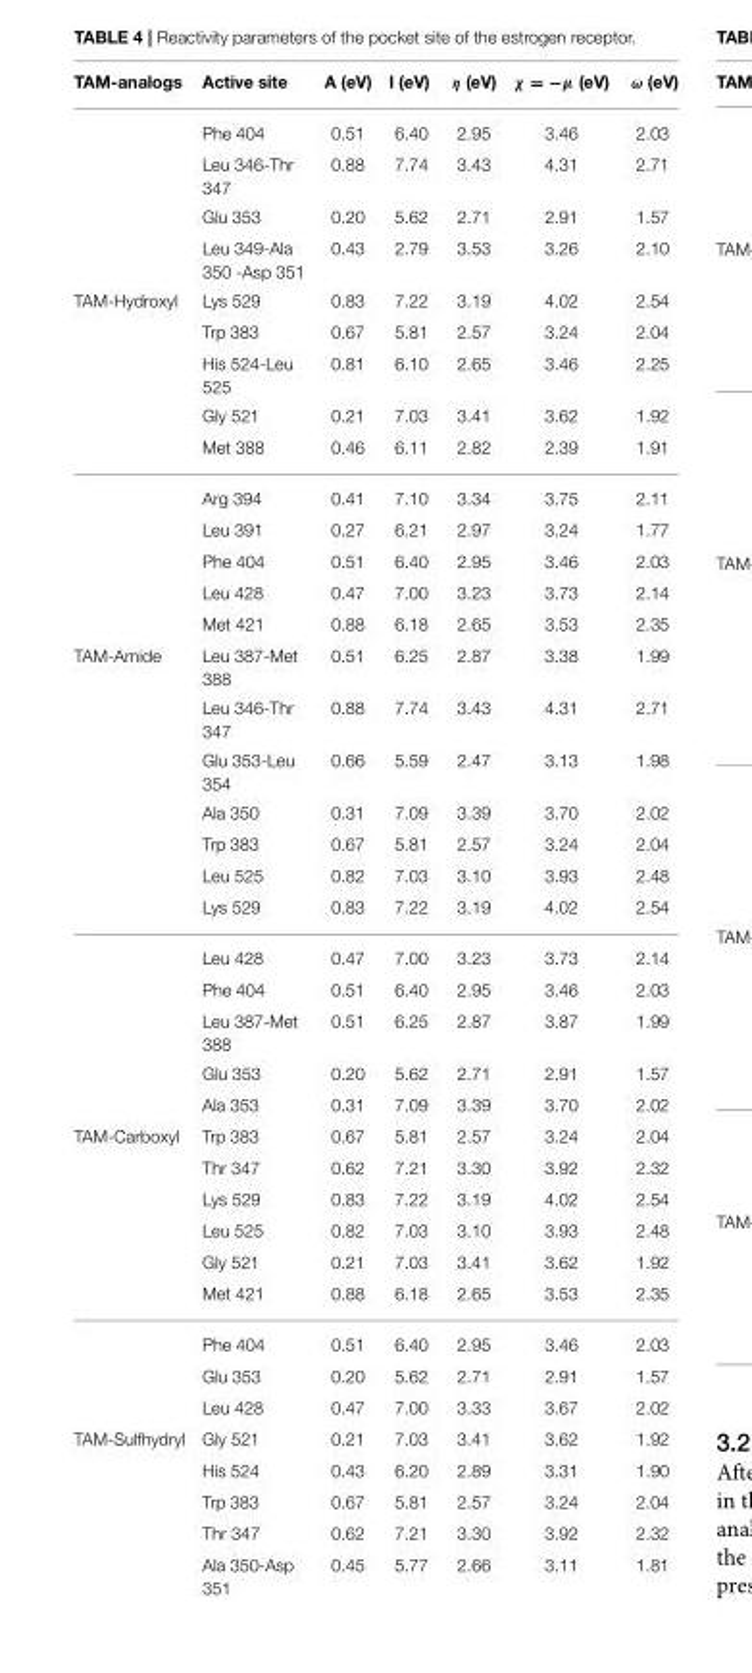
<table><thead><tr><td>TAM-analogs</td><td>Active site</td><td>A (eV)</td><td>I (eV)</td><td>η (eV)</td><td>χ = −µ (eV)</td><td>ω (eV)</td></tr></thead><tbody><tr><td></td><td>Phe 404</td><td>0.51</td><td>6.40</td><td>2.95</td><td>3.46</td><td>2.03</td></tr><tr><td></td><td>Leu 346-Thr 347</td><td>0.88</td><td>7.74</td><td>3.43</td><td>4.31</td><td>2.71</td></tr><tr><td></td><td>Glu 353</td><td>0.20</td><td>5.62</td><td>2.71</td><td>2.91</td><td>1.57</td></tr><tr><td></td><td>Leu 349-Ala 350 -Asp 351</td><td>0.43</td><td>2.79</td><td>3.53</td><td>3.26</td><td>2.10</td></tr><tr><td rowspan="10">TAM-Hydroxyl</td><td>Lys 529</td><td>0.83</td><td>7.22</td><td>3.19</td><td>4.02</td><td>2.54</td></tr><tr><td>Trp 383</td><td>0.67</td><td>5.81</td><td>2.57</td><td>3.24</td><td>2.04</td></tr><tr><td>His 524-Leu 525</td><td>0.81</td><td>6.10</td><td>2.65</td><td>3.46</td><td>2.25</td></tr><tr><td>Gly 521</td><td>0.21</td><td>7.03</td><td>3.41</td><td>3.62</td><td>1.92</td></tr><tr><td>Met 388</td><td>0.46</td><td>6.11</td><td>2.82</td><td>2.39</td><td>1.91</td></tr><tr><td>Arg 394</td><td>0.41</td><td>7.10</td><td>3.34</td><td>3.75</td><td>2.11</td></tr><tr><td>Leu 391</td><td>0.27</td><td>6.21</td><td>2.97</td><td>3.24</td><td>1.77</td></tr><tr><td>Phe 404</td><td>0.51</td><td>6.40</td><td>2.95</td><td>3.46</td><td>2.03</td></tr><tr><td>Leu 428</td><td>0.47</td><td>7.00</td><td>3.23</td><td>3.73</td><td>2.14</td></tr><tr><td>Met 421</td><td>0.88</td><td>6.18</td><td>2.65</td><td>3.53</td><td>2.35</td></tr><tr><td rowspan="12">TAM-Amide</td><td>Leu 387-Met 388</td><td>0.51</td><td>6.25</td><td>2.87</td><td>3.38</td><td>1.99</td></tr><tr><td>Leu 346-Thr 347</td><td>0.88</td><td>7.74</td><td>3.43</td><td>4.31</td><td>2.71</td></tr><tr><td>Glu 353-Leu 354</td><td>0.66</td><td>5.59</td><td>2.47</td><td>3.13</td><td>1.98</td></tr><tr><td>Ala 350</td><td>0.31</td><td>7.09</td><td>3.39</td><td>3.70</td><td>2.02</td></tr><tr><td>Trp 383</td><td>0.67</td><td>5.81</td><td>2.57</td><td>3.24</td><td>2.04</td></tr><tr><td>Leu 525</td><td>0.82</td><td>7.03</td><td>3.10</td><td>3.93</td><td>2.48</td></tr><tr><td>Lys 529</td><td>0.83</td><td>7.22</td><td>3.19</td><td>4.02</td><td>2.54</td></tr><tr><td>Leu 428</td><td>0.47</td><td>7.00</td><td>3.23</td><td>3.73</td><td>2.14</td></tr><tr><td>Phe 404</td><td>0.51</td><td>6.40</td><td>2.95</td><td>3.46</td><td>2.03</td></tr><tr><td>Leu 387-Met 388</td><td>0.51</td><td>6.25</td><td>2.87</td><td>3.87</td><td>1.99</td></tr><tr><td>Glu 353</td><td>0.20</td><td>5.62</td><td>2.71</td><td>2.91</td><td>1.57</td></tr><tr><td>Ala 353</td><td>0.31</td><td>7.09</td><td>3.39</td><td>3.70</td><td>2.02</td></tr><tr><td rowspan="9">TAM-Carboxyl</td><td>Trp 383</td><td>0.67</td><td>5.81</td><td>2.57</td><td>3.24</td><td>2.04</td></tr><tr><td>Thr 347</td><td>0.62</td><td>7.21</td><td>3.30</td><td>3.92</td><td>2.32</td></tr><tr><td>Lys 529</td><td>0.83</td><td>7.22</td><td>3.19</td><td>4.02</td><td>2.54</td></tr><tr><td>Leu 525</td><td>0.82</td><td>7.03</td><td>3.10</td><td>3.93</td><td>2.48</td></tr><tr><td>Gly 521</td><td>0.21</td><td>7.03</td><td>3.41</td><td>3.62</td><td>1.92</td></tr><tr><td>Met 421</td><td>0.88</td><td>6.18</td><td>2.65</td><td>3.53</td><td>2.35</td></tr><tr><td>Phe 404</td><td>0.51</td><td>6.40</td><td>2.95</td><td>3.46</td><td>2.03</td></tr><tr><td>Glu 353</td><td>0.20</td><td>5.62</td><td>2.71</td><td>2.91</td><td>1.57</td></tr><tr><td>Leu 428</td><td>0.47</td><td>7.00</td><td>3.33</td><td>3.67</td><td>2.02</td></tr><tr><td rowspan="5">TAM-Sulfhydryl</td><td>Gly 521</td><td>0.21</td><td>7.03</td><td>3.41</td><td>3.62</td><td>1.92</td></tr><tr><td>His 524</td><td>0.43</td><td>6.20</td><td>2.89</td><td>3.31</td><td>1.90</td></tr><tr><td>Trp 383</td><td>0.67</td><td>5.81</td><td>2.57</td><td>3.24</td><td>2.04</td></tr><tr><td>Thr 347</td><td>0.62</td><td>7.21</td><td>3.30</td><td>3.92</td><td>2.32</td></tr><tr><td>Ala 350-Asp 351</td><td>0.45</td><td>5.77</td><td>2.66</td><td>3.11</td><td>1.81</td></tr></tbody></table>